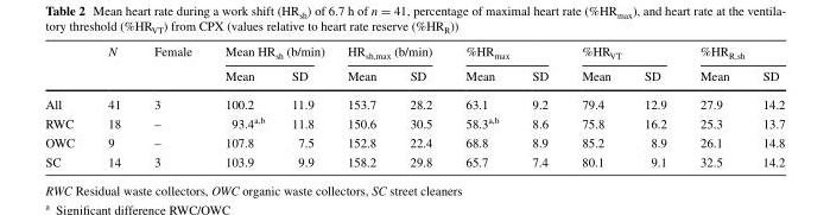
<table><thead><tr><td rowspan="2"></td><td rowspan="2">N</td><td rowspan="2">Female</td><td colspan="2">Mean HR<sub>sh</sub> (b/min)</td><td colspan="2">HR<sub>sh,max</sub> (b/min)</td><td colspan="2">%HR<sub>max</sub></td><td colspan="2">%HR<sub>VT</sub></td><td colspan="2">%HR<sub>R,sh</sub></td></tr><tr><td>Mean</td><td>SD</td><td>Mean</td><td>SD</td><td>Mean</td><td>SD</td><td>Mean</td><td>SD</td><td>Mean</td><td>SD</td></tr></thead><tbody><tr><td>All</td><td>41</td><td>3</td><td>100.2</td><td>11.9</td><td>153.7</td><td>28.2</td><td>63.1</td><td>9.2</td><td>79.4</td><td>12.9</td><td>27.9</td><td>14.2</td></tr><tr><td>RWC</td><td>18</td><td>–</td><td>93.4<sup>a,b</sup></td><td>11.8</td><td>150.6</td><td>30.5</td><td>58.3<sup>a,b</sup></td><td>8.6</td><td>75.8</td><td>16.2</td><td>25.3</td><td>13.7</td></tr><tr><td>OWC</td><td>9</td><td>–</td><td>107.8</td><td>7.5</td><td>152.8</td><td>22.4</td><td>68.8</td><td>8.9</td><td>85.2</td><td>8.9</td><td>26.1</td><td>14.8</td></tr><tr><td>SC</td><td>14</td><td>3</td><td>103.9</td><td>9.9</td><td>158.2</td><td>29.8</td><td>65.7</td><td>7.4</td><td>80.1</td><td>9.1</td><td>32.5</td><td>14.2</td></tr></tbody></table>